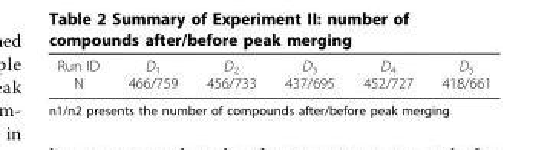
<table><tbody><tr><td>Run ID N</td><td>D<sub>1</sub> 466/759</td><td>D<sub>2</sub> 456/733</td><td>D<sub>3</sub> 437/695</td><td>D<sub>4</sub> 452/727</td><td>D<sub>5</sub> 418/661</td></tr></tbody></table>